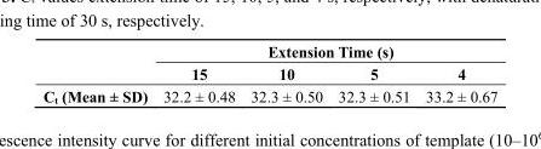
<table><thead><tr><td rowspan="2"></td><td colspan="4">Extension Time (s)</td></tr><tr><td>15</td><td>10</td><td>5</td><td>4</td></tr></thead><tbody><tr><td>C<sub>t</sub> (Mean ± SD)</td><td>32.2 ± 0.48</td><td>32.3 ± 0.50</td><td>32.3 ± 0.51</td><td>33.2 ± 0.67</td></tr></tbody></table>